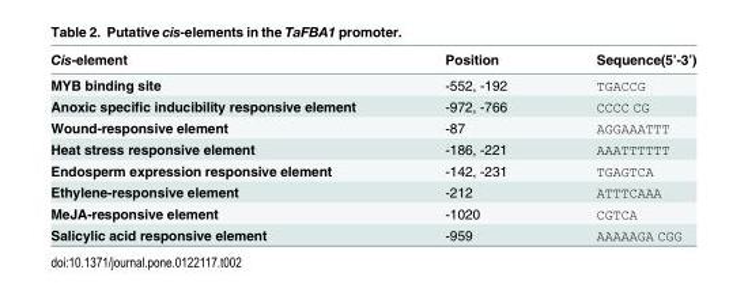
<table><thead><tr><td>Cis-element</td><td>Position</td><td>Sequence(5’-3’)</td></tr></thead><tbody><tr><td>MYB binding site</td><td>-552, -192</td><td>TGACCG</td></tr><tr><td>Anoxic specific inducibility responsive element</td><td>-972, -766</td><td>CCCC CG</td></tr><tr><td>Wound-responsive element</td><td>-87</td><td>AGGAAATTT</td></tr><tr><td>Heat stress responsive element</td><td>-186, -221</td><td>AAATTTTTT</td></tr><tr><td>Endosperm expression responsive element</td><td>-142, -231</td><td>TGAGTCA</td></tr><tr><td>Ethylene-responsive element</td><td>-212</td><td>ATTTCAAA</td></tr><tr><td>MeJA-responsive element</td><td>-1020</td><td>CGTCA</td></tr><tr><td>Salicylic acid responsive element</td><td>-959</td><td>AAAAAGA CGG</td></tr></tbody></table>